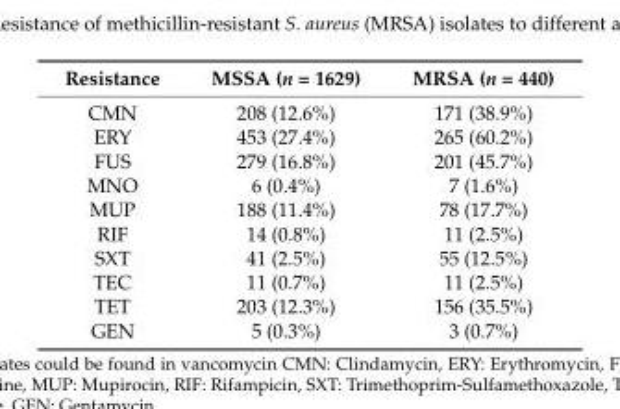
<table><thead><tr><td>Resistance</td><td>MSSA (n = 1629)</td><td>MRSA (n = 440)</td></tr></thead><tbody><tr><td>CMN</td><td>208 (12.6%)</td><td>171 (38.9%)</td></tr><tr><td>ERY</td><td>453 (27.4%)</td><td>265 (60.2%)</td></tr><tr><td>FUS</td><td>279 (16.8%)</td><td>201 (45.7%)</td></tr><tr><td>MNO</td><td>6 (0.4%)</td><td>7 (1.6%)</td></tr><tr><td>MUP</td><td>188 (11.4%)</td><td>78 (17.7%)</td></tr><tr><td>RIF</td><td>14 (0.8%)</td><td>11 (2.5%)</td></tr><tr><td>SXT</td><td>41 (2.5%)</td><td>55 (12.5%)</td></tr><tr><td>TEC</td><td>11 (0.7%)</td><td>11 (2.5%)</td></tr><tr><td>TET</td><td>203 (12.3%)</td><td>156 (35.5%)</td></tr><tr><td>GEN</td><td>5 (0.3%)</td><td>3 (0.7%)</td></tr></tbody></table>